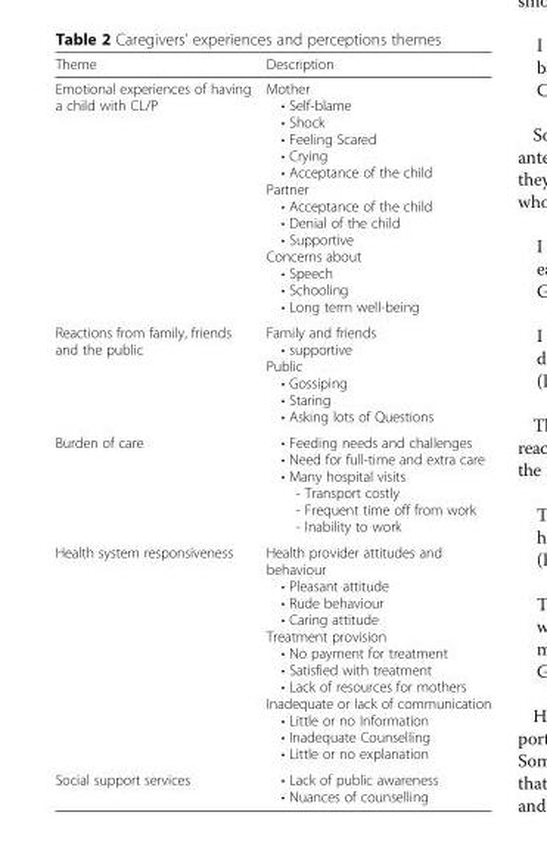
<table><thead><tr><td>Theme</td><td>Description</td></tr></thead><tbody><tr><td>Emotional experiences of having a child with CL/P</td><td>Mother • Self-blame • Shock • Feeling Scared • Crying • Acceptance of the child Partner • Acceptance of the child • Denial of the child • Supportive Concerns about • Speech • Schooling • Long term well-being</td></tr><tr><td>Reactions from family, friends and the public</td><td>Family and friends • supportive Public • Gossiping • Staring • Asking lots of Questions</td></tr><tr><td>Burden of care</td><td>• Feeding needs and challenges • Need for full-time and extra care • Many hospital visits - Transport costly - Frequent time off from work - Inability to work</td></tr><tr><td>Health system responsiveness</td><td>Health provider attitudes and behaviour • Pleasant attitude • Rude behaviour • Caring attitude Treatment provision • No payment for treatment • Satisfied with treatment • Lack of resources for mothers Inadequate or lack of communication • Little or no Information • Inadequate Counselling • Little or no explanation</td></tr><tr><td>Social support services</td><td>• Lack of public awareness • Nuances of counselling</td></tr></tbody></table>